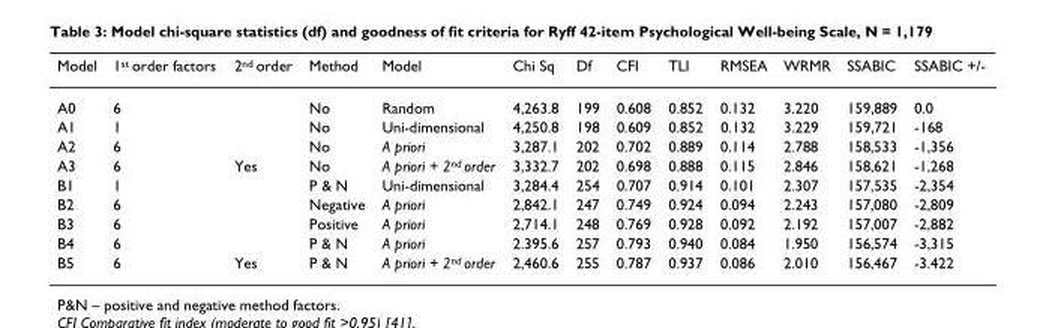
<table><thead><tr><td>Model</td><td>1<sup>st</sup> order factors</td><td>2<sup>nd</sup> order</td><td>Method</td><td>Model</td><td>Chi Sq</td><td>Df</td><td>CFI</td><td>TLI</td><td>RMSEA</td><td>WRMR</td><td>SSABIC</td><td>SSABIC +/-</td></tr></thead><tbody><tr><td>A0</td><td>6</td><td></td><td>No</td><td>Random</td><td>4,263.8</td><td>199</td><td>0.608</td><td>0.852</td><td>0.132</td><td>3.220</td><td>159,889</td><td>0.0</td></tr><tr><td>A1</td><td>1</td><td></td><td>No</td><td>Uni-dimensional</td><td>4,250.8</td><td>198</td><td>0.609</td><td>0.852</td><td>0.132</td><td>3.229</td><td>159,721</td><td>-168</td></tr><tr><td>A2</td><td>6</td><td></td><td>No</td><td>A priori</td><td>3,287.1</td><td>202</td><td>0.702</td><td>0.889</td><td>0.114</td><td>2.788</td><td>158,533</td><td>-1,356</td></tr><tr><td>A3</td><td>6</td><td>Yes</td><td>No</td><td>A priori + 2<sup>nd</sup> order</td><td>3,332.7</td><td>202</td><td>0.698</td><td>0.888</td><td>0.115</td><td>2.846</td><td>158,621</td><td>-1,268</td></tr><tr><td>B1</td><td>1</td><td></td><td>P &amp; N</td><td>Uni-dimensional</td><td>3,284.4</td><td>254</td><td>0.707</td><td>0.914</td><td>0.101</td><td>2.307</td><td>157,535</td><td>-2,354</td></tr><tr><td>B2</td><td>6</td><td></td><td>Negative</td><td>A priori</td><td>2,842.1</td><td>247</td><td>0.749</td><td>0.924</td><td>0.094</td><td>2.243</td><td>157,080</td><td>-2,809</td></tr><tr><td>B3</td><td>6</td><td></td><td>Positive</td><td>A priori</td><td>2,714.1</td><td>248</td><td>0.769</td><td>0.928</td><td>0.092</td><td>2.192</td><td>157,007</td><td>-2,882</td></tr><tr><td>B4</td><td>6</td><td></td><td>P &amp; N</td><td>A priori</td><td>2.395.6</td><td>257</td><td>0.793</td><td>0.940</td><td>0.084</td><td>1.950</td><td>156,574</td><td>-3,315</td></tr><tr><td>B5</td><td>6</td><td>Yes</td><td>P &amp; N</td><td>A priori + 2<sup>nd</sup> order</td><td>2,460.6</td><td>255</td><td>0.787</td><td>0.937</td><td>0.086</td><td>2.010</td><td>156,467</td><td>-3.422</td></tr></tbody></table>